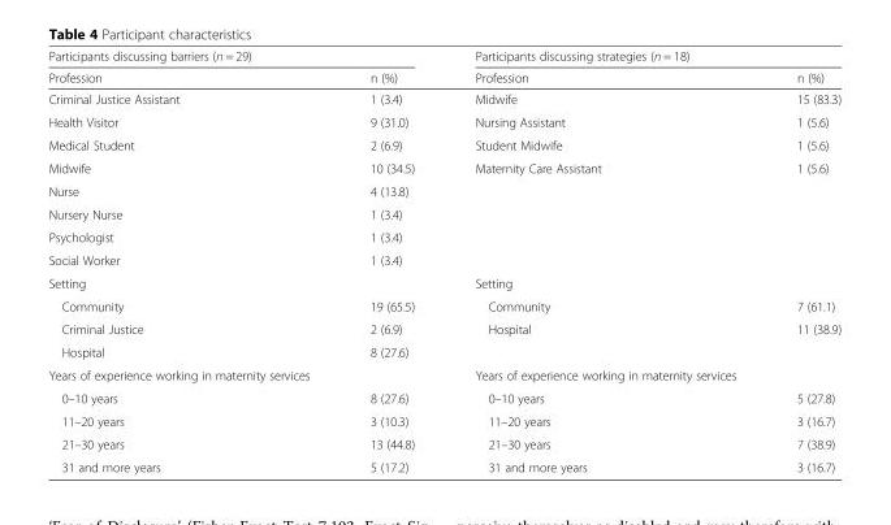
<table><thead><tr><td colspan="2">Participants discussing barriers (n = 29)</td><td colspan="2">Participants discussing strategies (n = 18)</td></tr><tr><td>Profession</td><td>n (%)</td><td>Profession</td><td>n (%)</td></tr></thead><tbody><tr><td>Criminal Justice Assistant</td><td>1 (3.4)</td><td>Midwife</td><td>15 (83.3)</td></tr><tr><td>Health Visitor</td><td>9 (31.0)</td><td>Nursing Assistant</td><td>1 (5.6)</td></tr><tr><td>Medical Student</td><td>2 (6.9)</td><td>Student Midwife</td><td>1 (5.6)</td></tr><tr><td>Midwife</td><td>10 (34.5)</td><td rowspan="5">Maternity Care Assistant</td><td rowspan="5">1 (5.6)</td></tr><tr><td>Nurse</td><td>4 (13.8)</td></tr><tr><td>Nursery Nurse</td><td>1 (3.4)</td></tr><tr><td>Psychologist</td><td>1 (3.4)</td></tr><tr><td>Social Worker</td><td>1 (3.4)</td></tr><tr><td>Setting</td><td></td><td>Setting</td><td></td></tr><tr><td>Community</td><td>19 (65.5)</td><td>Community</td><td>7 (61.1)</td></tr><tr><td>Criminal Justice</td><td>2 (6.9)</td><td rowspan="2">Hospital</td><td rowspan="2">11 (38.9)</td></tr><tr><td>Hospital</td><td>8 (27.6)</td></tr><tr><td>Years of experience working in maternity services</td><td></td><td>Years of experience working in maternity services</td><td></td></tr><tr><td>0–10 years</td><td>8 (27.6)</td><td>0–10 years</td><td>5 (27.8)</td></tr><tr><td>11–20 years</td><td>3 (10.3)</td><td>11–20 years</td><td>3 (16.7)</td></tr><tr><td>21–30 years</td><td>13 (44.8)</td><td>21–30 years</td><td>7 (38.9)</td></tr><tr><td>31 and more years</td><td>5 (17.2)</td><td>31 and more years</td><td>3 (16.7)</td></tr></tbody></table>